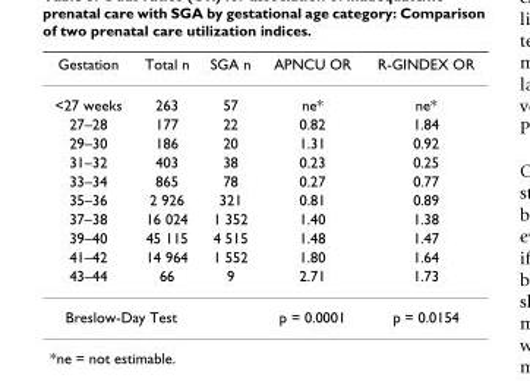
<table><thead><tr><td>Gestation</td><td>Total n</td><td>SGA n</td><td>APNCU OR</td><td>R-GINDEX OR</td></tr></thead><tbody><tr><td>&lt;27 weeks</td><td>263</td><td>57</td><td>ne*</td><td>ne*</td></tr><tr><td>27–28</td><td>177</td><td>22</td><td>0.82</td><td>1.84</td></tr><tr><td>29–30</td><td>186</td><td>20</td><td>1.31</td><td>0.92</td></tr><tr><td>31–32</td><td>403</td><td>38</td><td>0.23</td><td>0.25</td></tr><tr><td>33–34</td><td>865</td><td>78</td><td>0.27</td><td>0.77</td></tr><tr><td>35–36</td><td>2 926</td><td>321</td><td>0.81</td><td>0.89</td></tr><tr><td>37–38</td><td>16 024</td><td>1 352</td><td>1.40</td><td>1.38</td></tr><tr><td>39–40</td><td>45 115</td><td>4 515</td><td>1.48</td><td>1.47</td></tr><tr><td>41–42</td><td>14 964</td><td>1 552</td><td>1.80</td><td>1.64</td></tr><tr><td>43–44</td><td>66</td><td>9</td><td>2.71</td><td>1.73</td></tr><tr><td colspan="2">Breslow-Day Test</td><td></td><td>p = 0.0001</td><td>p = 0.0154</td></tr></tbody></table>